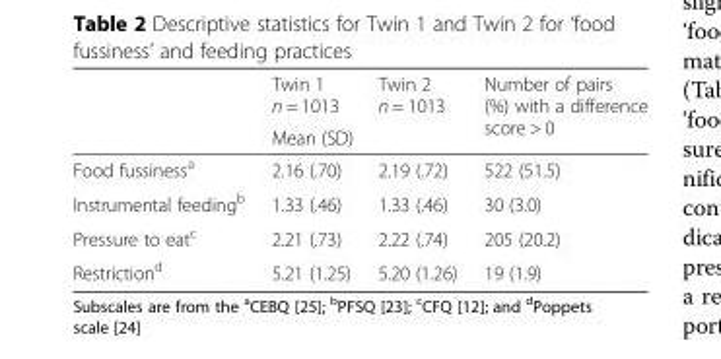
<table><thead><tr><td rowspan="2"></td><td>Twin 1 n = 1013</td><td>Twin 2 n = 1013</td><td rowspan="2">Number of pairs (%) with a difference score &gt; 0</td></tr><tr><td colspan="2">Mean (SD)</td></tr></thead><tbody><tr><td>Food fussiness<sup>a</sup></td><td>2.16 (.70)</td><td>2.19 (.72)</td><td>522 (51.5)</td></tr><tr><td>Instrumental feeding<sup>b</sup></td><td>1.33 (.46)</td><td>1.33 (.46)</td><td>30 (3.0)</td></tr><tr><td>Pressure to eat<sup>c</sup></td><td>2.21 (.73)</td><td>2.22 (.74)</td><td>205 (20.2)</td></tr><tr><td>Restriction<sup>d</sup></td><td>5.21 (1.25)</td><td>5.20 (1.26)</td><td>19 (1.9)</td></tr></tbody></table>